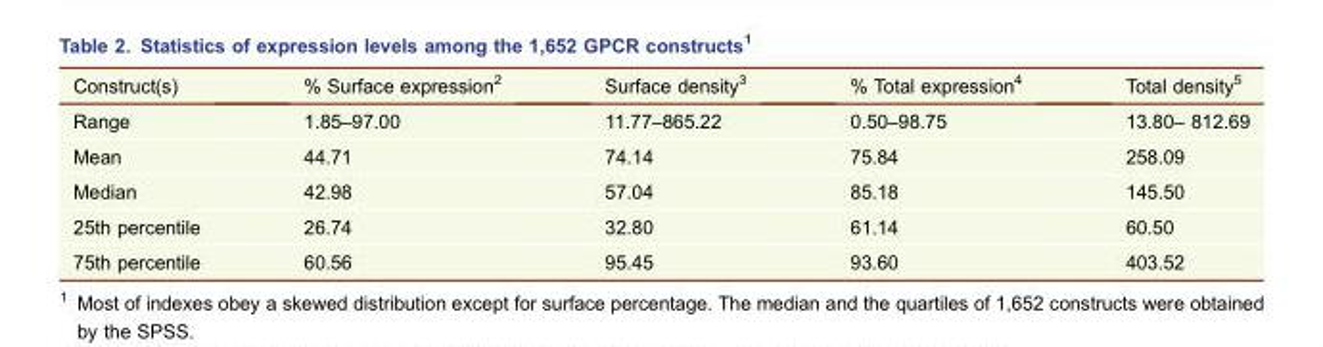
<table><thead><tr><td>Construct(s)</td><td>% Surface expression<sup>2</sup></td><td>Surface density<sup>3</sup></td><td>% Total expression<sup>4</sup></td><td>Total density<sup>5</sup></td></tr></thead><tbody><tr><td>Range</td><td>1.85–97.00</td><td>11.77–865.22</td><td>0.50–98.75</td><td>13.80– 812.69</td></tr><tr><td>Mean</td><td>44.71</td><td>74.14</td><td>75.84</td><td>258.09</td></tr><tr><td>Median</td><td>42.98</td><td>57.04</td><td>85.18</td><td>145.50</td></tr><tr><td>25th percentile</td><td>26.74</td><td>32.80</td><td>61.14</td><td>60.50</td></tr><tr><td>75th percentile</td><td>60.56</td><td>95.45</td><td>93.60</td><td>403.52</td></tr></tbody></table>